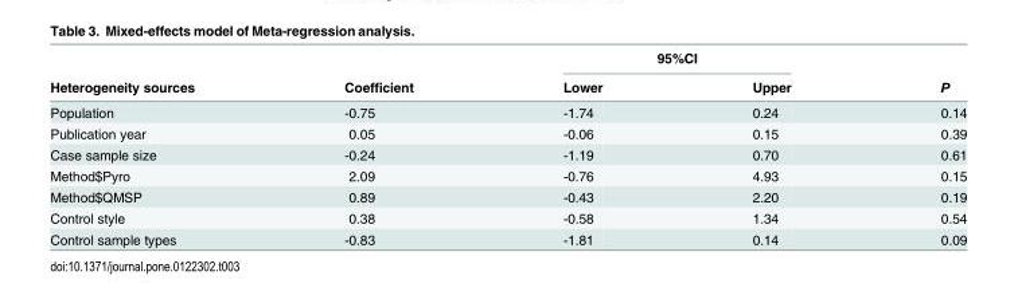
<table><thead><tr><td rowspan="2">Heterogeneity sources</td><td rowspan="2">Coefficient</td><td colspan="2">95%CI</td><td rowspan="2">P</td></tr><tr><td>Lower</td><td>Upper</td></tr></thead><tbody><tr><td>Population</td><td>-0.75</td><td>-1.74</td><td>0.24</td><td>0.14</td></tr><tr><td>Publication year</td><td>0.05</td><td>-0.06</td><td>0.15</td><td>0.39</td></tr><tr><td>Case sample size</td><td>-0.24</td><td>-1.19</td><td>0.70</td><td>0.61</td></tr><tr><td>Method$Pyro</td><td>2.09</td><td>-0.76</td><td>4.93</td><td>0.15</td></tr><tr><td>Method$QMSP</td><td>0.89</td><td>-0.43</td><td>2.20</td><td>0.19</td></tr><tr><td>Control style</td><td>0.38</td><td>-0.58</td><td>1.34</td><td>0.54</td></tr><tr><td>Control sample types</td><td>-0.83</td><td>-1.81</td><td>0.14</td><td>0.09</td></tr></tbody></table>